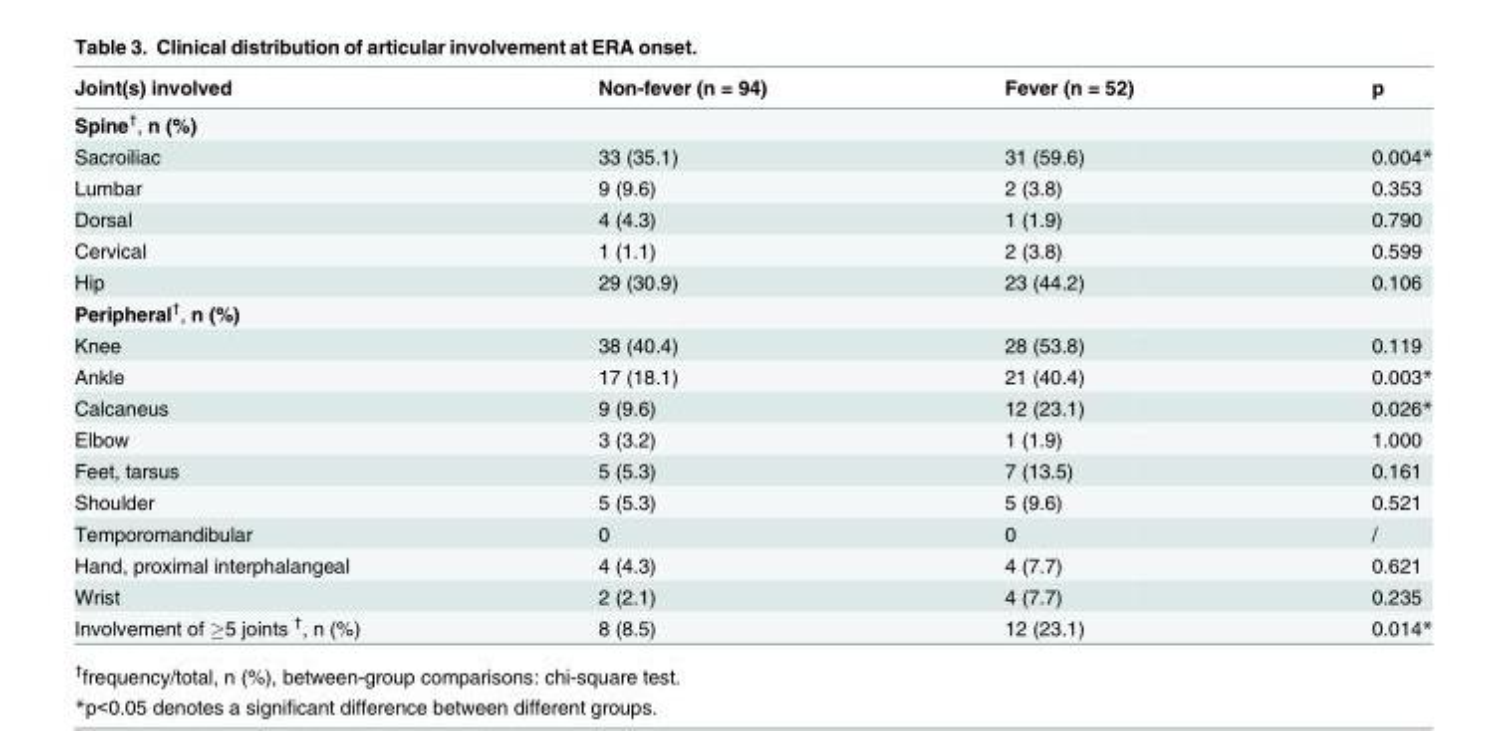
<table><thead><tr><td>Joint(s) involved</td><td>Non-fever (n = 94)</td><td>Fever (n = 52)</td><td>p</td></tr></thead><tbody><tr><td colspan="4">Spine<sup>†</sup>, n (%)</td></tr><tr><td>Sacroiliac</td><td>33 (35.1)</td><td>31 (59.6)</td><td>0.004*</td></tr><tr><td>Lumbar</td><td>9 (9.6)</td><td>2 (3.8)</td><td>0.353</td></tr><tr><td>Dorsal</td><td>4 (4.3)</td><td>1 (1.9)</td><td>0.790</td></tr><tr><td>Cervical</td><td>1 (1.1)</td><td>2 (3.8)</td><td>0.599</td></tr><tr><td>Hip</td><td>29 (30.9)</td><td>23 (44.2)</td><td>0.106</td></tr><tr><td colspan="4">Peripheral<sup>†</sup>, n (%)</td></tr><tr><td>Knee</td><td>38 (40.4)</td><td>28 (53.8)</td><td>0.119</td></tr><tr><td>Ankle</td><td>17 (18.1)</td><td>21 (40.4)</td><td>0.003*</td></tr><tr><td>Calcaneus</td><td>9 (9.6)</td><td>12 (23.1)</td><td>0.026*</td></tr><tr><td>Elbow</td><td>3 (3.2)</td><td>1 (1.9)</td><td>1.000</td></tr><tr><td>Feet, tarsus</td><td>5 (5.3)</td><td>7 (13.5)</td><td>0.161</td></tr><tr><td>Shoulder</td><td>5 (5.3)</td><td>5 (9.6)</td><td>0.521</td></tr><tr><td>Temporomandibular</td><td>0</td><td>0</td><td>/</td></tr><tr><td>Hand, proximal interphalangeal</td><td>4 (4.3)</td><td>4 (7.7)</td><td>0.621</td></tr><tr><td>Wrist</td><td>2 (2.1)</td><td>4 (7.7)</td><td>0.235</td></tr><tr><td>Involvement of ≥5 joints <sup>†</sup>, n (%)</td><td>8 (8.5)</td><td>12 (23.1)</td><td>0.014*</td></tr></tbody></table>